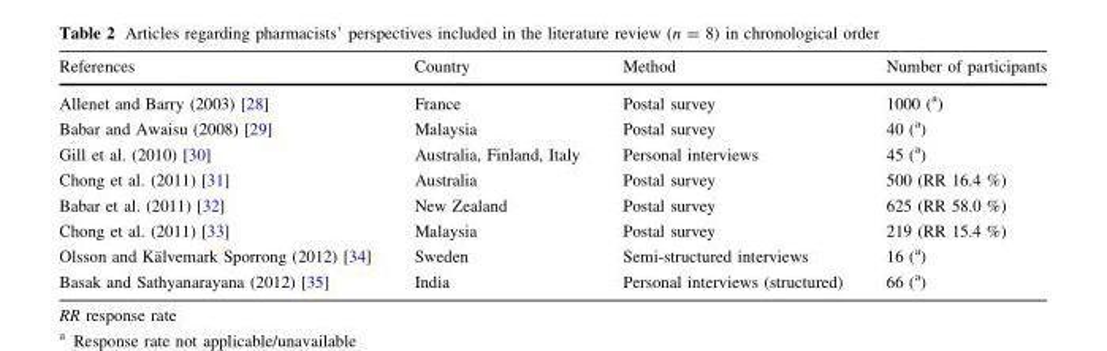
<table><thead><tr><td>References</td><td>Country</td><td>Method</td><td>Number of participants</td></tr></thead><tbody><tr><td>Allenet and Barry (2003) [28]</td><td>France</td><td>Postal survey</td><td>1000 (<sup>a</sup>)</td></tr><tr><td>Babar and Awaisu (2008) [29]</td><td>Malaysia</td><td>Postal survey</td><td>40 (<sup>a</sup>)</td></tr><tr><td>Gill et al. (2010) [30]</td><td>Australia, Finland, Italy</td><td>Personal interviews</td><td>45 (<sup>a</sup>)</td></tr><tr><td>Chong et al. (2011) [31]</td><td>Australia</td><td>Postal survey</td><td>500 (RR 16.4 %)</td></tr><tr><td>Babar et al. (2011) [32]</td><td>New Zealand</td><td>Postal survey</td><td>625 (RR 58.0 %)</td></tr><tr><td>Chong et al. (2011) [33]</td><td>Malaysia</td><td>Postal survey</td><td>219 (RR 15.4 %)</td></tr><tr><td>Olsson and Ka¨lvemark Sporrong (2012) [34]</td><td>Sweden</td><td>Semi-structured interviews</td><td>16 (<sup>a</sup>)</td></tr><tr><td>Basak and Sathyanarayana (2012) [35]</td><td>India</td><td>Personal interviews (structured)</td><td>66 (<sup>a</sup>)</td></tr></tbody></table>